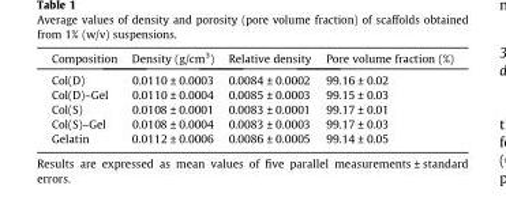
<table><thead><tr><td>Composition</td><td>Density (g/cm<sup>3</sup>)</td><td>Relative density</td><td>Pore volume fraction (%)</td></tr></thead><tbody><tr><td>Col(D)</td><td>0.0110 ± 0.0003</td><td>0.0084 ± 0.0002</td><td>99.16 ± 0.02</td></tr><tr><td>Col(D)–Gel</td><td>0.0110 ± 0.0004</td><td>0.0085 ± 0.0003</td><td>99.15 ± 0.03</td></tr><tr><td>Col(S)</td><td>0.0108 ± 0.0001</td><td>0.0083 ± 0.0001</td><td>99.17 ± 0.01</td></tr><tr><td>Col(S)–Gel</td><td>0.0108 ± 0.0004</td><td>0.0083 ± 0.0003</td><td>99.17 ± 0.03</td></tr><tr><td>Gelatin</td><td>0.0112 ± 0.0006</td><td>0.0086 ± 0.0005</td><td>99.14 ± 0.05</td></tr></tbody></table>